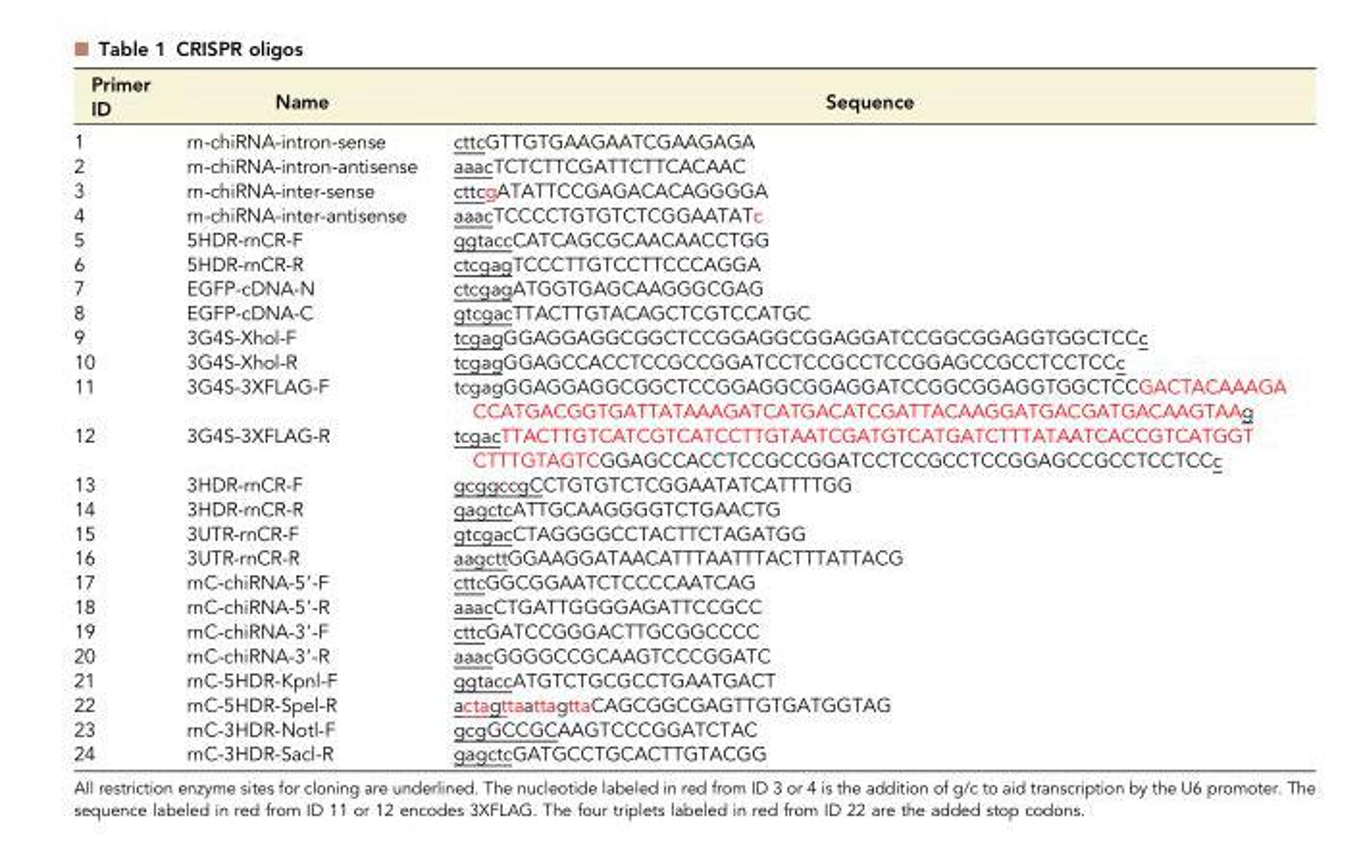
<table><thead><tr><td>Primer ID</td><td>Name</td><td>Sequence</td></tr></thead><tbody><tr><td>1</td><td>rn-chiRNA-intron-sense</td><td>cttcGTTGTGAAGAATCGAAGAGA</td></tr><tr><td>2</td><td>rn-chiRNA-intron-antisense</td><td>aaacTCTCTTCGATTCTTCACAAC</td></tr><tr><td>3</td><td>rn-chiRNA-inter-sense</td><td>cttcgATATTCCGAGACACAGGGGA</td></tr><tr><td>4</td><td>rn-chiRNA-inter-antisense</td><td>aaacTCCCCTGTGTCTCGGAATATc</td></tr><tr><td>5</td><td>5HDR-rnCR-F</td><td>ggtaccCATCAGCGCAACAACCTGG</td></tr><tr><td>6</td><td>5HDR-rnCR-R</td><td>ctcgagTCCCTTGTCCTTCCCAGGA</td></tr><tr><td>7</td><td>EGFP-cDNA-N</td><td>ctcgagATGGTGAGCAAGGGCGAG</td></tr><tr><td>8</td><td>EGFP-cDNA-C</td><td>gtcgacTTACTTGTACAGCTCGTCCATGC</td></tr><tr><td>9</td><td>3G4S-Xhol-F</td><td>tcgagGGAGGAGGCGGCTCCGGAGGCGGAGGATCCGGCGGAGGTGGCTCCc</td></tr><tr><td>10</td><td>3G4S-Xhol-R</td><td>tcgagGGAGCCACCTCCGCCGGATCCTCCGCCTCCGGAGCCGCCTCCTCCc</td></tr><tr><td>11</td><td>3G4S-3XFLAG-F</td><td>tcgagGGAGGAGGCGGCTCCGGAGGCGGAGGATCCGGCGGAGGTGGCTCCGACTACAAAGA CCATGACGGTGATTATAAAGATCATGACATCGATTACAAGGATGACGATGACAAGTAAg</td></tr><tr><td>12</td><td>3G4S-3XFLAG-R</td><td>tcgacTTACTTGTCATCGTCATCCTTGTAATCGATGTCATGATCTTTATAATCACCGTCATGGT CTTTGTAGTCGGAGCCACCTCCGCCGGATCCTCCGCCTCCGGAGCCGCCTCCTCCc</td></tr><tr><td>13</td><td>3HDR-rnCR-F</td><td>gcggccgCCTGTGTCTCGGAATATCATTTTGG</td></tr><tr><td>14</td><td>3HDR-rnCR-R</td><td>gagctcATTGCAAGGGGTCTGAACTG</td></tr><tr><td>15</td><td>3UTR-rnCR-F</td><td>gtcgacCTAGGGGCCTACTTCTAGATGG</td></tr><tr><td>16</td><td>3UTR-rnCR-R</td><td>aagcttGGAAGGATAACATTTAATTTACTTTATTACG</td></tr><tr><td>17</td><td>rnC-chiRNA-5′-F</td><td>cttcGGCGGAATCTCCCCAATCAG</td></tr><tr><td>18</td><td>rnC-chiRNA-5′-R</td><td>aaacCTGATTGGGGAGATTCCGCC</td></tr><tr><td>19</td><td>rnC-chiRNA-3′-F</td><td>cttcGATCCGGGACTTGCGGCCCC</td></tr><tr><td>20</td><td>rnC-chiRNA-3′-R</td><td>aaacGGGGCCGCAAGTCCCGGATC</td></tr><tr><td>21</td><td>rnC-5HDR-Kpnl-F</td><td>ggtaccATGTCTGCGCCTGAATGACT</td></tr><tr><td>22</td><td>rnC-5HDR-Spel-R</td><td>actagttaattagttaCAGCGGCGAGTTGTGATGGTAG</td></tr><tr><td>23</td><td>rnC-3HDR-Notl-F</td><td>gcgGCCGCAAGTCCCGGATCTAC</td></tr><tr><td>24</td><td>rnC-3HDR-Sacl-R</td><td>gagctcGATGCCTGCACTTGTACGG</td></tr></tbody></table>